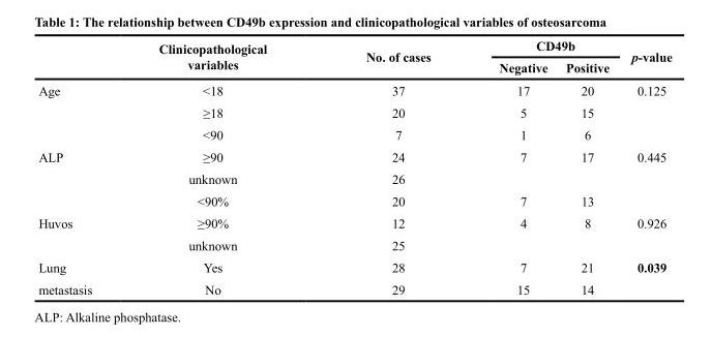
<table><thead><tr><td rowspan="2"></td><td rowspan="2">Clinicopathological variables</td><td rowspan="2">No. of cases</td><td colspan="2">CD49b</td><td rowspan="2">p-value</td></tr><tr><td>Negative</td><td>Positive</td></tr></thead><tbody><tr><td rowspan="3">Age</td><td>&lt;18</td><td>37</td><td>17</td><td>20</td><td>0.125</td></tr><tr><td>≥18</td><td>20</td><td>5</td><td>15</td><td></td></tr><tr><td>&lt;90</td><td>7</td><td>1</td><td>6</td><td></td></tr><tr><td rowspan="3">ALP</td><td>≥90</td><td>24</td><td>7</td><td>17</td><td>0.445</td></tr><tr><td>unknown</td><td>26</td><td></td><td></td><td></td></tr><tr><td>&lt;90%</td><td>20</td><td>7</td><td>13</td><td></td></tr><tr><td rowspan="2">Huvos</td><td>≥90%</td><td>12</td><td>4</td><td>8</td><td>0.926</td></tr><tr><td>unknown</td><td>25</td><td></td><td></td><td></td></tr><tr><td>Lung</td><td>Yes</td><td>28</td><td>7</td><td>21</td><td>0.039</td></tr><tr><td>metastasis</td><td>No</td><td>29</td><td>15</td><td>14</td><td></td></tr></tbody></table>